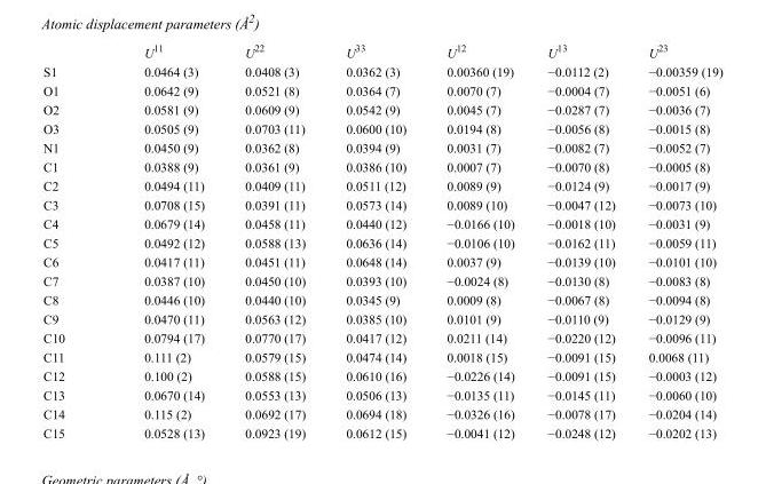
<table><thead><tr><td></td><td>U<sup>11</sup></td><td>U<sup>22</sup></td><td>U<sup>33</sup></td><td>U<sup>12</sup></td><td>U<sup>13</sup></td><td>U<sup>23</sup></td></tr></thead><tbody><tr><td>S1</td><td>0.0464 (3)</td><td>0.0408 (3)</td><td>0.0362 (3)</td><td>0.00360 (19)</td><td>−0.0112 (2)</td><td>−0.00359 (19)</td></tr><tr><td>O1</td><td>0.0642 (9)</td><td>0.0521 (8)</td><td>0.0364 (7)</td><td>0.0070 (7)</td><td>−0.0004 (7)</td><td>−0.0051 (6)</td></tr><tr><td>O2</td><td>0.0581 (9)</td><td>0.0609 (9)</td><td>0.0542 (9)</td><td>0.0045 (7)</td><td>−0.0287 (7)</td><td>−0.0036 (7)</td></tr><tr><td>O3</td><td>0.0505 (9)</td><td>0.0703 (11)</td><td>0.0600 (10)</td><td>0.0194 (8)</td><td>−0.0056 (8)</td><td>−0.0015 (8)</td></tr><tr><td>N1</td><td>0.0450 (9)</td><td>0.0362 (8)</td><td>0.0394 (9)</td><td>0.0031 (7)</td><td>−0.0082 (7)</td><td>−0.0052 (7)</td></tr><tr><td>C1</td><td>0.0388 (9)</td><td>0.0361 (9)</td><td>0.0386 (10)</td><td>0.0007 (7)</td><td>−0.0070 (8)</td><td>−0.0005 (8)</td></tr><tr><td>C2</td><td>0.0494 (11)</td><td>0.0409 (11)</td><td>0.0511 (12)</td><td>0.0089 (9)</td><td>−0.0124 (9)</td><td>−0.0017 (9)</td></tr><tr><td>C3</td><td>0.0708 (15)</td><td>0.0391 (11)</td><td>0.0573 (14)</td><td>0.0089 (10)</td><td>−0.0047 (12)</td><td>−0.0073 (10)</td></tr><tr><td>C4</td><td>0.0679 (14)</td><td>0.0458 (11)</td><td>0.0440 (12)</td><td>−0.0166 (10)</td><td>−0.0018 (10)</td><td>−0.0031 (9)</td></tr><tr><td>C5</td><td>0.0492 (12)</td><td>0.0588 (13)</td><td>0.0636 (14)</td><td>−0.0106 (10)</td><td>−0.0162 (11)</td><td>−0.0059 (11)</td></tr><tr><td>C6</td><td>0.0417 (11)</td><td>0.0451 (11)</td><td>0.0648 (14)</td><td>0.0037 (9)</td><td>−0.0139 (10)</td><td>−0.0101 (10)</td></tr><tr><td>C7</td><td>0.0387 (10)</td><td>0.0450 (10)</td><td>0.0393 (10)</td><td>−0.0024 (8)</td><td>−0.0130 (8)</td><td>−0.0083 (8)</td></tr><tr><td>C8</td><td>0.0446 (10)</td><td>0.0440 (10)</td><td>0.0345 (9)</td><td>0.0009 (8)</td><td>−0.0067 (8)</td><td>−0.0094 (8)</td></tr><tr><td>C9</td><td>0.0470 (11)</td><td>0.0563 (12)</td><td>0.0385 (10)</td><td>0.0101 (9)</td><td>−0.0110 (9)</td><td>−0.0129 (9)</td></tr><tr><td>C10</td><td>0.0794 (17)</td><td>0.0770 (17)</td><td>0.0417 (12)</td><td>0.0211 (14)</td><td>−0.0220 (12)</td><td>−0.0096 (11)</td></tr><tr><td>C11</td><td>0.111 (2)</td><td>0.0579 (15)</td><td>0.0474 (14)</td><td>0.0018 (15)</td><td>−0.0091 (15)</td><td>0.0068 (11)</td></tr><tr><td>C12</td><td>0.100 (2)</td><td>0.0588 (15)</td><td>0.0610 (16)</td><td>−0.0226 (14)</td><td>−0.0091 (15)</td><td>−0.0003 (12)</td></tr><tr><td>C13</td><td>0.0670 (14)</td><td>0.0553 (13)</td><td>0.0506 (13)</td><td>−0.0135 (11)</td><td>−0.0145 (11)</td><td>−0.0060 (10)</td></tr><tr><td>C14</td><td>0.115 (2)</td><td>0.0692 (17)</td><td>0.0694 (18)</td><td>−0.0326 (16)</td><td>−0.0078 (17)</td><td>−0.0204 (14)</td></tr><tr><td>C15</td><td>0.0528 (13)</td><td>0.0923 (19)</td><td>0.0612 (15)</td><td>−0.0041 (12)</td><td>−0.0248 (12)</td><td>−0.0202 (13)</td></tr></tbody></table>